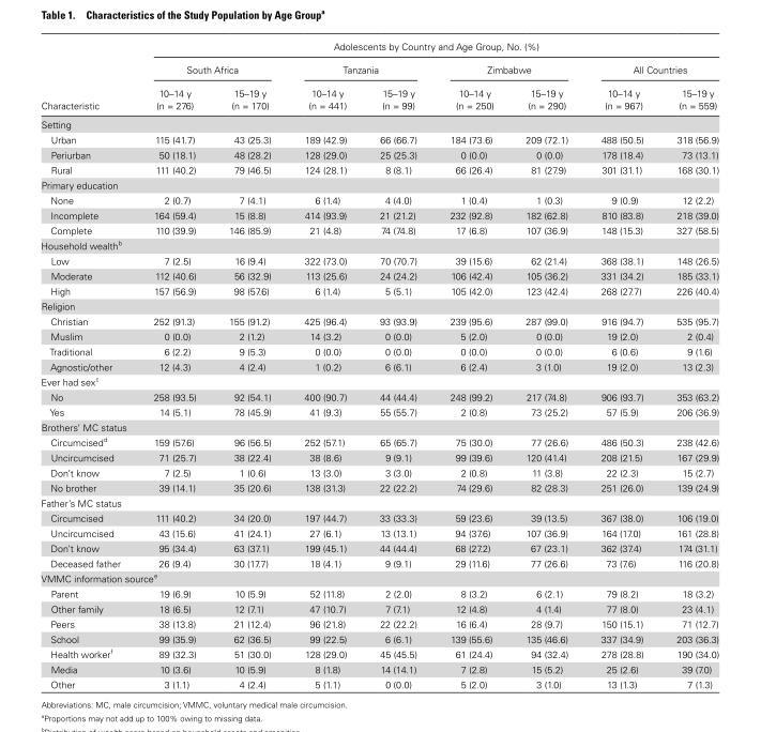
<table><thead><tr><td rowspan="3">Characteristic</td><td colspan="8">Adolescents by Country and Age Group, No. (%)</td></tr><tr><td colspan="2">South Africa</td><td colspan="2">Tanzania</td><td colspan="2">Zimbabwe</td><td colspan="2">All Countries</td></tr><tr><td>10–14 y (n = 276)</td><td>15–19 y (n = 170)</td><td>10–14 y (n = 441)</td><td>15–19 y (n = 99)</td><td>10–14 y (n = 250)</td><td>15–19 y (n = 290)</td><td>10–14 y (n = 967)</td><td>15–19 y (n = 559)</td></tr></thead><tbody><tr><td colspan="9">Setting</td></tr><tr><td>Urban</td><td>115 (41.7)</td><td>43 (25.3)</td><td>189 (42.9)</td><td>66 (66.7)</td><td>184 (73.6)</td><td>209 (72.1)</td><td>488 (50.5)</td><td>318 (56.9)</td></tr><tr><td>Periurban</td><td>50 (18.1)</td><td>48 (28.2)</td><td>128 (29.0)</td><td>25 (25.3)</td><td>0 (0.0)</td><td>0 (0.0)</td><td>178 (18.4)</td><td>73 (13.1)</td></tr><tr><td>Rural</td><td>111 (40.2)</td><td>79 (46.5)</td><td>124 (28.1)</td><td>8 (8.1)</td><td>66 (26.4)</td><td>81 (27.9)</td><td>301 (31.1)</td><td>168 (30.1)</td></tr><tr><td colspan="9">Primary education</td></tr><tr><td>None</td><td>2 (0.7)</td><td>7 (4.1)</td><td>6 (1.4)</td><td>4 (4.0)</td><td>1 (0.4)</td><td>1 (0.3)</td><td>9 (0.9)</td><td>12 (2.2)</td></tr><tr><td>Incomplete</td><td>164 (59.4)</td><td>15 (8.8)</td><td>414 (93.9)</td><td>21 (21.2)</td><td>232 (92.8)</td><td>182 (62.8)</td><td>810 (83.8)</td><td>218 (39.0)</td></tr><tr><td>Complete</td><td>110 (39.9)</td><td>146 (85.9)</td><td>21 (4.8)</td><td>74 (74.8)</td><td>17 (6.8)</td><td>107 (36.9)</td><td>148 (15.3)</td><td>327 (58.5)</td></tr><tr><td colspan="9">Household wealth<sup>b</sup></td></tr><tr><td>Low</td><td>7 (2.5)</td><td>16 (9.4)</td><td>322 (73.0)</td><td>70 (70.7)</td><td>39 (15.6)</td><td>62 (21.4)</td><td>368 (38.1)</td><td>148 (26.5)</td></tr><tr><td>Moderate</td><td>112 (40.6)</td><td>56 (32.9)</td><td>113 (25.6)</td><td>24 (24.2)</td><td>106 (42.4)</td><td>105 (36.2)</td><td>331 (34.2)</td><td>185 (33.1)</td></tr><tr><td>High</td><td>157 (56.9)</td><td>98 (57.6)</td><td>6 (1.4)</td><td>5 (5.1)</td><td>105 (42.0)</td><td>123 (42.4)</td><td>268 (27.7)</td><td>226 (40.4)</td></tr><tr><td colspan="9">Religion</td></tr><tr><td>Christian</td><td>252 (91.3)</td><td>155 (91.2)</td><td>425 (96.4)</td><td>93 (93.9)</td><td>239 (95.6)</td><td>287 (99.0)</td><td>916 (94.7)</td><td>535 (95.7)</td></tr><tr><td>Muslim</td><td>0 (0.0)</td><td>2 (1.2)</td><td>14 (3.2)</td><td>0 (0.0)</td><td>5 (2.0)</td><td>0 (0.0)</td><td>19 (2.0)</td><td>2 (0.4)</td></tr><tr><td>Traditional</td><td>6 (2.2)</td><td>9 (5.3)</td><td>0 (0.0)</td><td>0 (0.0)</td><td>0 (0.0)</td><td>0 (0.0)</td><td>6 (0.6)</td><td>9 (1.6)</td></tr><tr><td>Agnostic/other</td><td>12 (4.3)</td><td>4 (2.4)</td><td>1 (0.2)</td><td>6 (6.1)</td><td>6 (2.4)</td><td>3 (1.0)</td><td>19 (2.0)</td><td>13 (2.3)</td></tr><tr><td colspan="9">Ever had sex<sup>c</sup></td></tr><tr><td>No</td><td>258 (93.5)</td><td>92 (54.1)</td><td>400 (90.7)</td><td>44 (44.4)</td><td>248 (99.2)</td><td>217 (74.8)</td><td>906 (93.7)</td><td>353 (63.2)</td></tr><tr><td>Yes</td><td>14 (5.1)</td><td>78 (45.9)</td><td>41 (9.3)</td><td>55 (55.7)</td><td>2 (0.8)</td><td>73 (25.2)</td><td>57 (5.9)</td><td>206 (36.9)</td></tr><tr><td colspan="9">Brothers’ MC status</td></tr><tr><td>Circumcised<sup>d</sup></td><td>159 (57.6)</td><td>96 (56.5)</td><td>252 (57.1)</td><td>65 (65.7)</td><td>75 (30.0)</td><td>77 (26.6)</td><td>486 (50.3)</td><td>238 (42.6)</td></tr><tr><td>Uncircumcised</td><td>71 (25.7)</td><td>38 (22.4)</td><td>38 (8.6)</td><td>9 (9.1)</td><td>99 (39.6)</td><td>120 (41.4)</td><td>208 (21.5)</td><td>167 (29.9)</td></tr><tr><td>Don’t know</td><td>7 (2.5)</td><td>1 (0.6)</td><td>13 (3.0)</td><td>3 (3.0)</td><td>2 (0.8)</td><td>11 (3.8)</td><td>22 (2.3)</td><td>15 (2.7)</td></tr><tr><td>No brother</td><td>39 (14.1)</td><td>35 (20.6)</td><td>138 (31.3)</td><td>22 (22.2)</td><td>74 (29.6)</td><td>82 (28.3)</td><td>251 (26.0)</td><td>139 (24.9)</td></tr><tr><td colspan="9">Father’s MC status</td></tr><tr><td>Circumcised</td><td>111 (40.2)</td><td>34 (20.0)</td><td>197 (44.7)</td><td>33 (33.3)</td><td>59 (23.6)</td><td>39 (13.5)</td><td>367 (38.0)</td><td>106 (19.0)</td></tr><tr><td>Uncircumcised</td><td>43 (15.6)</td><td>41 (24.1)</td><td>27 (6.1)</td><td>13 (13.1)</td><td>94 (37.6)</td><td>107 (36.9)</td><td>164 (17.0)</td><td>161 (28.8)</td></tr><tr><td>Don’t know</td><td>95 (34.4)</td><td>63 (37.1)</td><td>199 (45.1)</td><td>44 (44.4)</td><td>68 (27.2)</td><td>67 (23.1)</td><td>362 (37.4)</td><td>174 (31.1)</td></tr><tr><td>Deceased father</td><td>26 (9.4)</td><td>30 (17.7)</td><td>18 (4.1)</td><td>9 (9.1)</td><td>29 (11.6)</td><td>77 (26.6)</td><td>73 (7.6)</td><td>116 (20.8)</td></tr><tr><td colspan="9">VMMC information source<sup>e</sup></td></tr><tr><td>Parent</td><td>19 (6.9)</td><td>10 (5.9)</td><td>52 (11.8)</td><td>2 (2.0)</td><td>8 (3.2)</td><td>6 (2.1)</td><td>79 (8.2)</td><td>18 (3.2)</td></tr><tr><td>Other family</td><td>18 (6.5)</td><td>12 (7.1)</td><td>47 (10.7)</td><td>7 (7.1)</td><td>12 (4.8)</td><td>4 (1.4)</td><td>77 (8.0)</td><td>23 (4.1)</td></tr><tr><td>Peers</td><td>38 (13.8)</td><td>21 (12.4)</td><td>96 (21.8)</td><td>22 (22.2)</td><td>16 (6.4)</td><td>28 (9.7)</td><td>150 (15.1)</td><td>71 (12.7)</td></tr><tr><td>School</td><td>99 (35.9)</td><td>62 (36.5)</td><td>99 (22.5)</td><td>6 (6.1)</td><td>139 (55.6)</td><td>135 (46.6)</td><td>337 (34.9)</td><td>203 (36.3)</td></tr><tr><td>Health worker<sup>f</sup></td><td>89 (32.3)</td><td>51 (30.0)</td><td>128 (29.0)</td><td>45 (45.5)</td><td>61 (24.4)</td><td>94 (32.4)</td><td>278 (28.8)</td><td>190 (34.0)</td></tr><tr><td>Media</td><td>10 (3.6)</td><td>10 (5.9)</td><td>8 (1.8)</td><td>14 (14.1)</td><td>7 (2.8)</td><td>15 (5.2)</td><td>25 (2.6)</td><td>39 (7.0)</td></tr><tr><td>Other</td><td>3 (1.1)</td><td>4 (2.4)</td><td>5 (1.1)</td><td>0 (0.0)</td><td>5 (2.0)</td><td>3 (1.0)</td><td>13 (1.3)</td><td>7 (1.3)</td></tr></tbody></table>